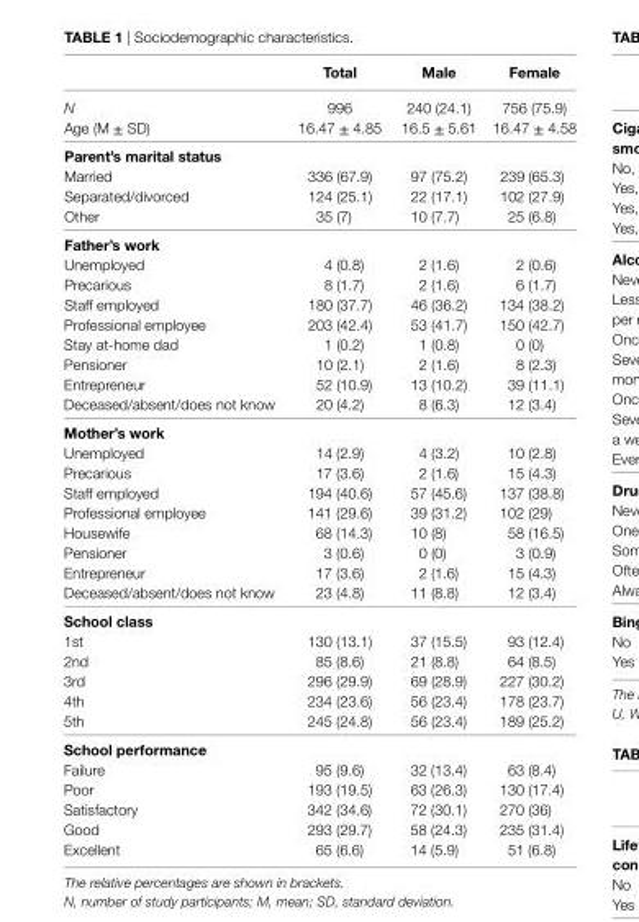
<table><thead><tr><td></td><td>Total</td><td>Male</td><td>Female</td></tr></thead><tbody><tr><td>N</td><td>996</td><td>240 (24.1)</td><td>756 (75.9)</td></tr><tr><td>Age (M ± SD)</td><td>16.47 ± 4.85</td><td>16.5 ± 5.61</td><td>16.47 ± 4.58</td></tr><tr><td colspan="4">Parent’s marital status</td></tr><tr><td>Married</td><td>336 (67.9)</td><td>97 (75.2)</td><td>239 (65.3)</td></tr><tr><td>Separated/divorced</td><td>124 (25.1)</td><td>22 (17.1)</td><td>102 (27.9)</td></tr><tr><td>Other</td><td>35 (7)</td><td>10 (7.7)</td><td>25 (6.8)</td></tr><tr><td colspan="4">Father’s work</td></tr><tr><td>Unemployed</td><td>4 (0.8)</td><td>2 (1.6)</td><td>2 (0.6)</td></tr><tr><td>Precarious</td><td>8 (1.7)</td><td>2 (1.6)</td><td>6 (1.7)</td></tr><tr><td>Staff employed</td><td>180 (37.7)</td><td>46 (36.2)</td><td>134 (38.2)</td></tr><tr><td>Professional employee</td><td>203 (42.4)</td><td>53 (41.7)</td><td>150 (42.7)</td></tr><tr><td>Stay at-home dad</td><td>1 (0.2)</td><td>1 (0.8)</td><td>0 (0)</td></tr><tr><td>Pensioner</td><td>10 (2.1)</td><td>2 (1.6)</td><td>8 (2.3)</td></tr><tr><td>Entrepreneur</td><td>52 (10.9)</td><td>13 (10.2)</td><td>39 (11.1)</td></tr><tr><td>Deceased/absent/does not know</td><td>20 (4.2)</td><td>8 (6.3)</td><td>12 (3.4)</td></tr><tr><td colspan="4">Mother’s work</td></tr><tr><td>Unemployed</td><td>14 (2.9)</td><td>4 (3.2)</td><td>10 (2.8)</td></tr><tr><td>Precarious</td><td>17 (3.6)</td><td>2 (1.6)</td><td>15 (4.3)</td></tr><tr><td>Staff employed</td><td>194 (40.6)</td><td>57 (45.6)</td><td>137 (38.8)</td></tr><tr><td>Professional employee</td><td>141 (29.6)</td><td>39 (31.2)</td><td>102 (29)</td></tr><tr><td>Housewife</td><td>68 (14.3)</td><td>10 (8)</td><td>58 (16.5)</td></tr><tr><td>Pensioner</td><td>3 (0.6)</td><td>0 (0)</td><td>3 (0.9)</td></tr><tr><td>Entrepreneur</td><td>17 (3.6)</td><td>2 (1.6)</td><td>15 (4.3)</td></tr><tr><td>Deceased/absent/does not know</td><td>23 (4.8)</td><td>11 (8.8)</td><td>12 (3.4)</td></tr><tr><td colspan="4">school class</td></tr><tr><td>1st</td><td>130 (13.1)</td><td>37 (15.5)</td><td>93 (12.4)</td></tr><tr><td>2nd</td><td>85 (8.6)</td><td>21 (8.8)</td><td>64 (8.5)</td></tr><tr><td>3rd</td><td>296 (29.9)</td><td>69 (28.9)</td><td>227 (30.2)</td></tr><tr><td>4th</td><td>234 (23.6)</td><td>56 (23.4)</td><td>178 (23.7)</td></tr><tr><td>5th</td><td>245 (24.8)</td><td>56 (23.4)</td><td>189 (25.2)</td></tr><tr><td colspan="4">school performance</td></tr><tr><td>Failure</td><td>95 (9.6)</td><td>32 (13.4)</td><td>63 (8.4)</td></tr><tr><td>Poor</td><td>193 (19.5)</td><td>63 (26.3)</td><td>130 (17.4)</td></tr><tr><td>Satisfactory</td><td>342 (34.6)</td><td>72 (30.1)</td><td>270 (36)</td></tr><tr><td>Good</td><td>293 (29.7)</td><td>58 (24.3)</td><td>235 (31.4)</td></tr><tr><td>Excellent</td><td>65 (6.6)</td><td>14 (5.9)</td><td>51 (6.8)</td></tr></tbody></table>